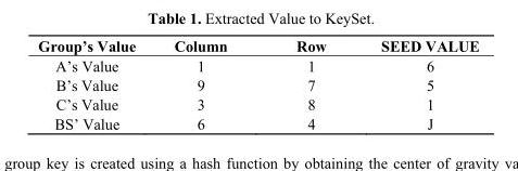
<table><thead><tr><td>Group’s Value</td><td>Column</td><td>Row</td><td>SEED VALUE</td></tr></thead><tbody><tr><td>A’s Value</td><td>1</td><td>1</td><td>6</td></tr><tr><td>B’s Value</td><td>9</td><td>7</td><td>5</td></tr><tr><td>C’s Value</td><td>3</td><td>8</td><td>1</td></tr><tr><td>BS’ Value</td><td>6</td><td>4</td><td>J</td></tr></tbody></table>